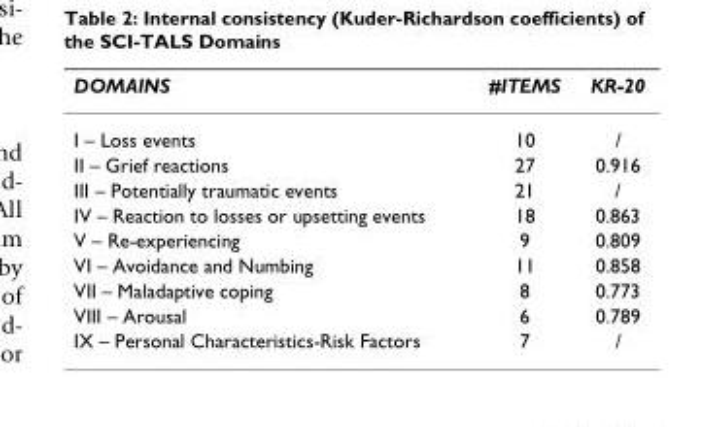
<table><thead><tr><td>DOMAINS</td><td>#ITEMS</td><td>KR-20</td></tr></thead><tbody><tr><td>I – Loss events</td><td>10</td><td>/</td></tr><tr><td>II – Grief reactions</td><td>27</td><td>0.916</td></tr><tr><td>III – Potentially traumatic events</td><td>21</td><td>/</td></tr><tr><td>IV – Reaction to losses or upsetting events</td><td>18</td><td>0.863</td></tr><tr><td>V – Re-experiencing</td><td>9</td><td>0.809</td></tr><tr><td>VI – Avoidance and Numbing</td><td>11</td><td>0.858</td></tr><tr><td>VII – Maladaptive coping</td><td>8</td><td>0.773</td></tr><tr><td>VIII – Arousal</td><td>6</td><td>0.789</td></tr><tr><td>IX – Personal Characteristics-Risk Factors</td><td>7</td><td>/</td></tr></tbody></table>